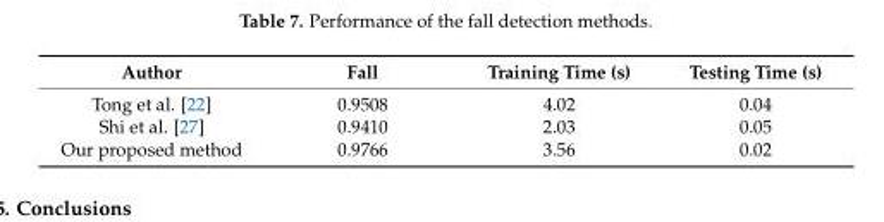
<table><thead><tr><td>Author</td><td>Fall</td><td>Training Time (s)</td><td>Testing Time (s)</td></tr></thead><tbody><tr><td>Tong et al. [22]</td><td>0.9508</td><td>4.02</td><td>0.04</td></tr><tr><td>Shi et al. [27]</td><td>0.9410</td><td>2.03</td><td>0.05</td></tr><tr><td>Our proposed method</td><td>0.9766</td><td>3.56</td><td>0.02</td></tr></tbody></table>